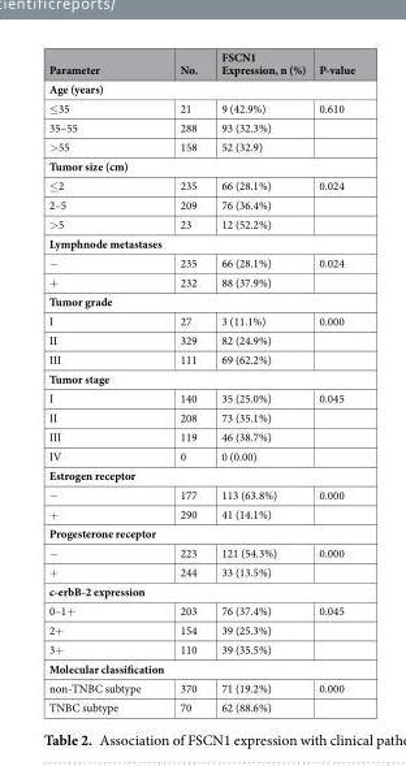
<table><thead><tr><td>Parameter</td><td>No.</td><td>FSCN1 Expression, n (%)</td><td>P-value</td></tr></thead><tbody><tr><td colspan="4">Age (years)</td></tr><tr><td>≤35</td><td>21</td><td>9 (42.9%)</td><td>0.610</td></tr><tr><td>35–55</td><td>288</td><td>93 (32.3%)</td><td></td></tr><tr><td>&gt;55</td><td>158</td><td>52 (32.9)</td><td></td></tr><tr><td colspan="4">Tumor size (cm)</td></tr><tr><td>≤2</td><td>235</td><td>66 (28.1%)</td><td>0.024</td></tr><tr><td>2–5</td><td>209</td><td>76 (36.4%)</td><td></td></tr><tr><td>&gt;5</td><td>23</td><td>12 (52.2%)</td><td></td></tr><tr><td colspan="4">Lymphnode metastases</td></tr><tr><td>−</td><td>235</td><td>66 (28.1%)</td><td>0.024</td></tr><tr><td>+</td><td>232</td><td>88 (37.9%)</td><td></td></tr><tr><td colspan="4">Tumor grade</td></tr><tr><td>I</td><td>27</td><td>3 (11.1%)</td><td>0.000</td></tr><tr><td>II</td><td>329</td><td>82 (24.9%)</td><td></td></tr><tr><td>III</td><td>111</td><td>69 (62.2%)</td><td></td></tr><tr><td colspan="4">Tumor stage</td></tr><tr><td>I</td><td>140</td><td>35 (25.0%)</td><td>0.045</td></tr><tr><td>II</td><td>208</td><td>73 (35.1%)</td><td></td></tr><tr><td>III</td><td>119</td><td>46 (38.7%)</td><td></td></tr><tr><td>IV</td><td>0</td><td>0 (0.00)</td><td></td></tr><tr><td colspan="4">Estrogen receptor</td></tr><tr><td>−</td><td>177</td><td>113 (63.8%)</td><td>0.000</td></tr><tr><td>+</td><td>290</td><td>41 (14.1%)</td><td></td></tr><tr><td colspan="4">Progesterone receptor</td></tr><tr><td>−</td><td>223</td><td>121 (54.3%)</td><td>0.000</td></tr><tr><td>+</td><td>244</td><td>33 (13.5%)</td><td></td></tr><tr><td colspan="4">c-erbB-2 expression</td></tr><tr><td>0–1+</td><td>203</td><td>76 (37.4%)</td><td>0.045</td></tr><tr><td>2+</td><td>154</td><td>39 (25.3%)</td><td></td></tr><tr><td>3+</td><td>110</td><td>39 (35.5%)</td><td></td></tr><tr><td colspan="4">Molecular classification</td></tr><tr><td>non-TNBC subtype</td><td>370</td><td>71 (19.2%)</td><td>0.000</td></tr><tr><td>TNBC subtype</td><td>70</td><td>62 (88.6%)</td><td></td></tr></tbody></table>